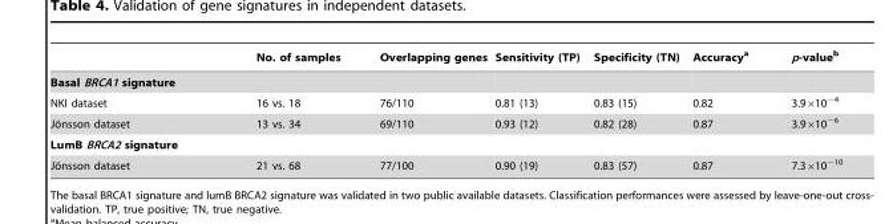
<table><thead><tr><td></td><td>No. of samples</td><td>Overlapping genes</td><td>Sensitivity (TP)</td><td>Specificity (TN)</td><td>Accuracy<sup>a</sup></td><td>p-value<sup>b</sup></td></tr></thead><tbody><tr><td colspan="7">Basal BRCA1 signature</td></tr><tr><td>NKI dataset</td><td>16 vs. 18</td><td>76/110</td><td>0.81 (13)</td><td>0.83 (15)</td><td>0.82</td><td>3.9×10<sup>−4</sup></td></tr><tr><td>Jo¨nsson dataset</td><td>13 vs. 34</td><td>69/110</td><td>0.93 (12)</td><td>0.82 (28)</td><td>0.87</td><td>3.9×10<sup>−6</sup></td></tr><tr><td colspan="7">LumB BRCA2 signature</td></tr><tr><td>Jo¨nsson dataset</td><td>21 vs. 68</td><td>77/100</td><td>0.90 (19)</td><td>0.83 (57)</td><td>0.87</td><td>7.3×10<sup>−10</sup></td></tr></tbody></table>